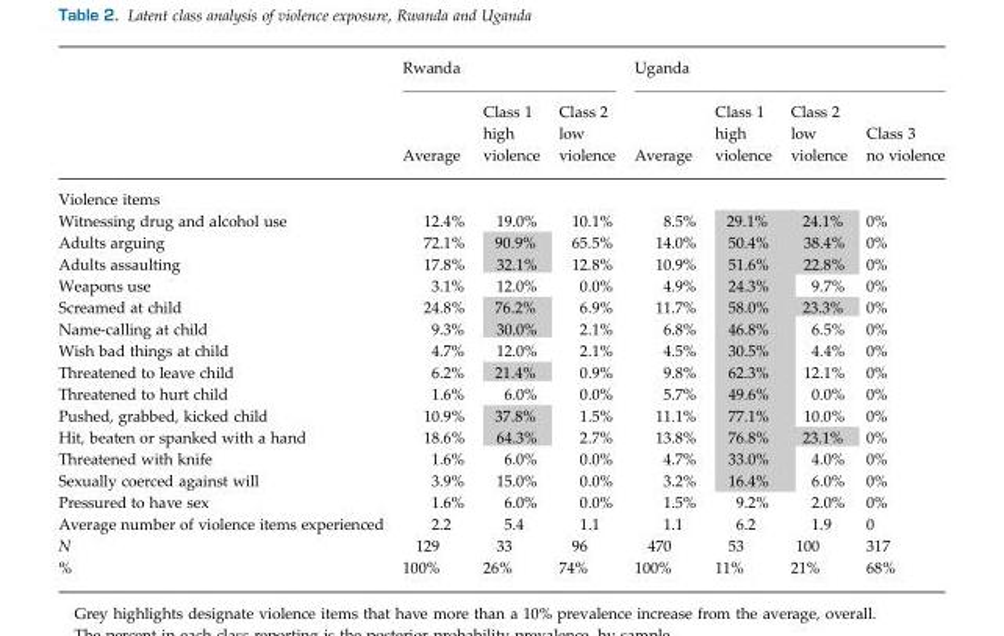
<table><thead><tr><td rowspan="2"></td><td colspan="3">Rwanda</td><td colspan="4">Uganda</td></tr><tr><td>Average</td><td>Class 1 high violence</td><td>Class 2 low violence</td><td>Average</td><td>Class 1 high violence</td><td>Class 2 low violence</td><td>Class 3 no violence</td></tr></thead><tbody><tr><td colspan="8">Violence items</td></tr><tr><td>Witnessing drug and alcohol use</td><td>12.4%</td><td>19.0%</td><td>10.1%</td><td>8.5%</td><td>29.1%</td><td>24.1%</td><td>0%</td></tr><tr><td>Adults arguing</td><td>72.1%</td><td>90.9%</td><td>65.5%</td><td>14.0%</td><td>50.4%</td><td>38.4%</td><td>0%</td></tr><tr><td>Adults assaulting</td><td>17.8%</td><td>32.1%</td><td>12.8%</td><td>10.9%</td><td>51.6%</td><td>22.8%</td><td>0%</td></tr><tr><td>Weapons use</td><td>3.1%</td><td>12.0%</td><td>0.0%</td><td>4.9%</td><td>24.3%</td><td>9.7%</td><td>0%</td></tr><tr><td>Screamed at child</td><td>24.8%</td><td>76.2%</td><td>6.9%</td><td>11.7%</td><td>58.0%</td><td>23.3%</td><td>0%</td></tr><tr><td>Name-calling at child</td><td>9.3%</td><td>30.0%</td><td>2.1%</td><td>6.8%</td><td>46.8%</td><td>6.5%</td><td>0%</td></tr><tr><td>Wish bad things at child</td><td>4.7%</td><td>12.0%</td><td>2.1%</td><td>4.5%</td><td>30.5%</td><td>4.4%</td><td>0%</td></tr><tr><td>Threatened to leave child</td><td>6.2%</td><td>21.4%</td><td>0.9%</td><td>9.8%</td><td>62.3%</td><td>12.1%</td><td>0%</td></tr><tr><td>Threatened to hurt child</td><td>1.6%</td><td>6.0%</td><td>0.0%</td><td>5.7%</td><td>49.6%</td><td>0.0%</td><td>0%</td></tr><tr><td>Pushed, grabbed, kicked child</td><td>10.9%</td><td>37.8%</td><td>1.5%</td><td>11.1%</td><td>77.1%</td><td>10.0%</td><td>0%</td></tr><tr><td>Hit, beaten or spanked with a hand</td><td>18.6%</td><td>64.3%</td><td>2.7%</td><td>13.8%</td><td>76.8%</td><td>23.1%</td><td>0%</td></tr><tr><td>Threatened with knife</td><td>1.6%</td><td>6.0%</td><td>0.0%</td><td>4.7%</td><td>33.0%</td><td>4.0%</td><td>0%</td></tr><tr><td>Sexually coerced against will</td><td>3.9%</td><td>15.0%</td><td>0.0%</td><td>3.2%</td><td>16.4%</td><td>6.0%</td><td>0%</td></tr><tr><td>Pressured to have sex</td><td>1.6%</td><td>6.0%</td><td>0.0%</td><td>1.5%</td><td>9.2%</td><td>2.0%</td><td>0%</td></tr><tr><td>Average number of violence items experienced</td><td>2.2</td><td>5.4</td><td>1.1</td><td>1.1</td><td>6.2</td><td>1.9</td><td>0</td></tr><tr><td>N</td><td>129</td><td>33</td><td>96</td><td>470</td><td>53</td><td>100</td><td>317</td></tr><tr><td>%</td><td>100%</td><td>26%</td><td>74%</td><td>100%</td><td>11%</td><td>21%</td><td>68%</td></tr></tbody></table>